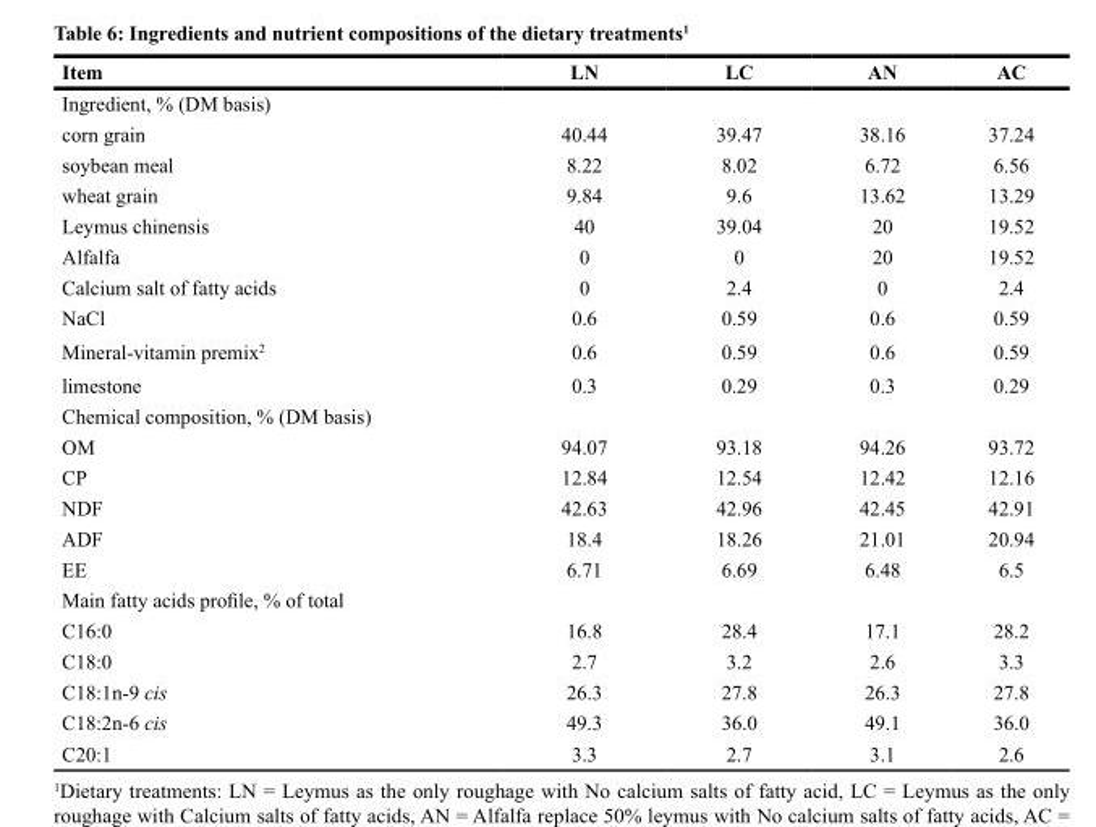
<table><thead><tr><td>Item</td><td>LN</td><td>LC</td><td>AN</td><td>AC</td></tr></thead><tbody><tr><td colspan="5">Ingredient, % (DM basis)</td></tr><tr><td>corn grain</td><td>40.44</td><td>39.47</td><td>38.16</td><td>37.24</td></tr><tr><td>soybean meal</td><td>8.22</td><td>8.02</td><td>6.72</td><td>6.56</td></tr><tr><td>wheat grain</td><td>9.84</td><td>9.6</td><td>13.62</td><td>13.29</td></tr><tr><td>Leymus chinensis</td><td>40</td><td>39.04</td><td>20</td><td>19.52</td></tr><tr><td>Alfalfa</td><td>0</td><td>0</td><td>20</td><td>19.52</td></tr><tr><td>Calcium salt of fatty acids</td><td>0</td><td>2.4</td><td>0</td><td>2.4</td></tr><tr><td>NaCl</td><td>0.6</td><td>0.59</td><td>0.6</td><td>0.59</td></tr><tr><td>Mineral-vitamin premix<sup>2</sup></td><td>0.6</td><td>0.59</td><td>0.6</td><td>0.59</td></tr><tr><td>limestone</td><td>0.3</td><td>0.29</td><td>0.3</td><td>0.29</td></tr><tr><td colspan="5">Chemical composition, % (DM basis)</td></tr><tr><td>OM</td><td>94.07</td><td>93.18</td><td>94.26</td><td>93.72</td></tr><tr><td>CP</td><td>12.84</td><td>12.54</td><td>12.42</td><td>12.16</td></tr><tr><td>NDF</td><td>42.63</td><td>42.96</td><td>42.45</td><td>42.91</td></tr><tr><td>ADF</td><td>18.4</td><td>18.26</td><td>21.01</td><td>20.94</td></tr><tr><td>EE</td><td>6.71</td><td>6.69</td><td>6.48</td><td>6.5</td></tr><tr><td colspan="5">Main fatty acids profile, % of total</td></tr><tr><td>C16:0</td><td>16.8</td><td>28.4</td><td>17.1</td><td>28.2</td></tr><tr><td>C18:0</td><td>2.7</td><td>3.2</td><td>2.6</td><td>3.3</td></tr><tr><td>C18:1n-9 cis</td><td>26.3</td><td>27.8</td><td>26.3</td><td>27.8</td></tr><tr><td>C18:2n-6 cis</td><td>49.3</td><td>36.0</td><td>49.1</td><td>36.0</td></tr><tr><td>C20:1</td><td>3.3</td><td>2.7</td><td>3.1</td><td>2.6</td></tr></tbody></table>